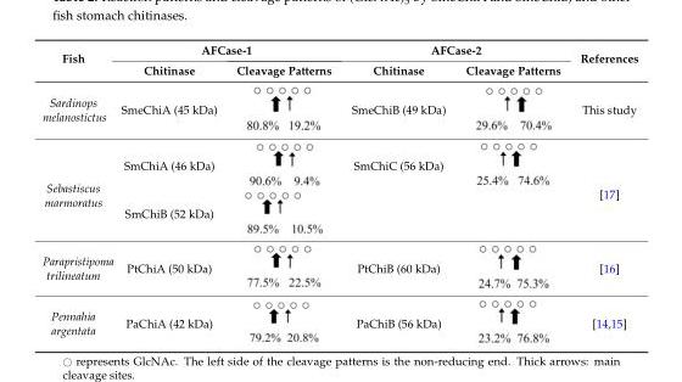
<table><thead><tr><td rowspan="2">Fish</td><td colspan="2">AFCase-1</td><td colspan="2">AFCase-2</td><td rowspan="2">References</td></tr><tr><td>Chitinase</td><td>Cleavage Patterns</td><td>Chitinase</td><td>Cleavage Patterns</td></tr></thead><tbody><tr><td>Sardinops melanostictus</td><td>SmeChiA (45 kDa)</td><td></td><td>SmeChiB (49 kDa)</td><td></td><td>This study</td></tr><tr><td rowspan="2">Sebastiscus marmoratus</td><td>SmChiA (46 kDa)</td><td></td><td>SmChiC (56 kDa)</td><td></td><td rowspan="2">[17]</td></tr><tr><td>SmChiB (52 kDa)</td><td></td><td></td><td></td></tr><tr><td>Parapristipoma trilineatum</td><td>PtChiA (50 kDa)</td><td></td><td>PtChiB (60 kDa)</td><td></td><td>[16]</td></tr><tr><td>Pennahia argentata</td><td>PaChiA (42 kDa)</td><td></td><td>PaChiB (56 kDa)</td><td></td><td>[14,15]</td></tr></tbody></table>